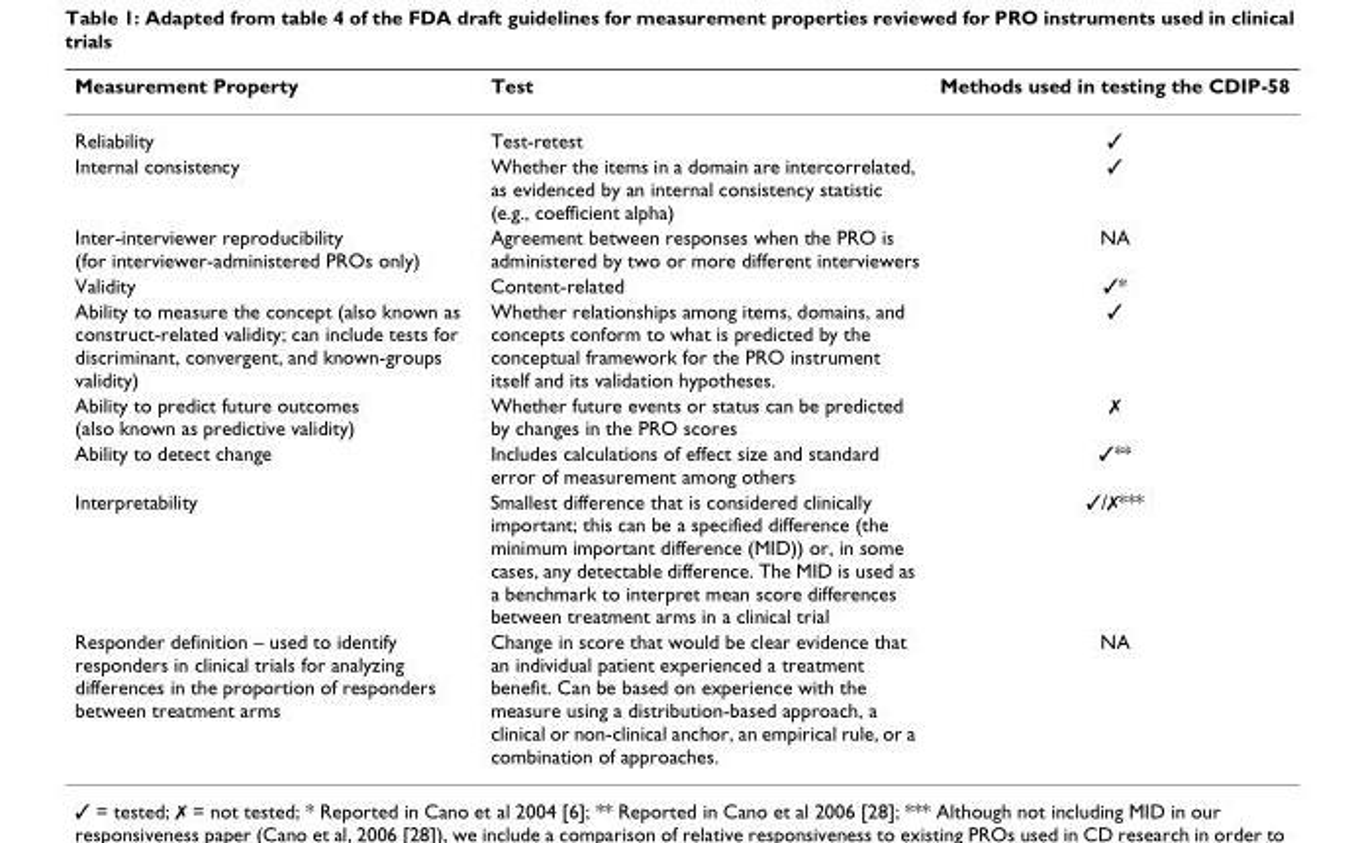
<table><thead><tr><td>Measurement Property</td><td>Test</td><td>Methods used in testing the CDIP-58</td></tr></thead><tbody><tr><td>Reliability</td><td>Test-retest</td><td>✓</td></tr><tr><td>Internal consistency</td><td>Whether the items in a domain are intercorrelated, as evidenced by an internal consistency statistic (e.g., coefficient alpha)</td><td>✓</td></tr><tr><td>Inter-interviewer reproducibility (for interviewer-administered PROs only)</td><td>Agreement between responses when the PRO is administered by two or more different interviewers</td><td>NA</td></tr><tr><td>Validity</td><td>Content-related</td><td>✓*</td></tr><tr><td>Ability to measure the concept (also known as construct-related validity; can include tests for discriminant, convergent, and known-groups validity)</td><td>Whether relationships among items, domains, and concepts conform to what is predicted by the conceptual framework for the PRO instrument itself and its validation hypotheses.</td><td>✓</td></tr><tr><td>Ability to predict future outcomes (also known as predictive validity)</td><td>Whether future events or status can be predicted by changes in the PRO scores</td><td>✗</td></tr><tr><td>Ability to detect change</td><td>Includes calculations of effect size and standard error of measurement among others</td><td>✓**</td></tr><tr><td>Interpretability</td><td>Smallest difference that is considered clinically important; this can be a specified difference (the minimum important difference (MID)) or, in some cases, any detectable difference. The MID is used as a benchmark to interpret mean score differences between treatment arms in a clinical trial</td><td>✓/✗***</td></tr><tr><td>Responder definition – used to identify responders in clinical trials for analyzing differences in the proportion of responders between treatment arms</td><td>Change in score that would be clear evidence that an individual patient experienced a treatment benefit. Can be based on experience with the measure using a distribution-based approach, a clinical or non-clinical anchor, an empirical rule, or a combination of approaches.</td><td>NA</td></tr></tbody></table>